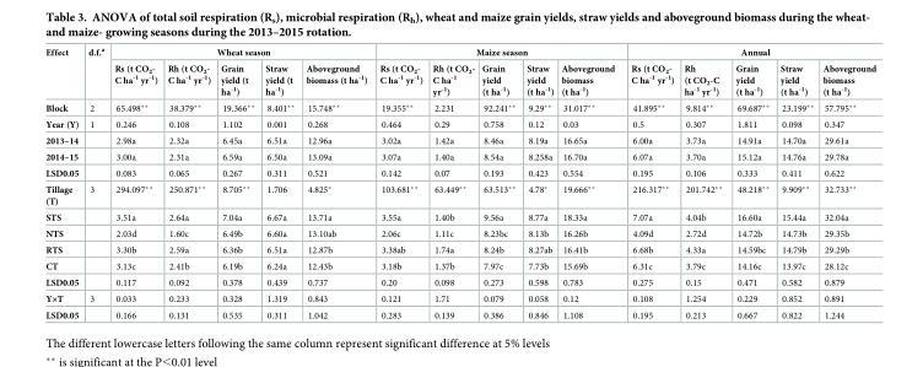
<table><thead><tr><td rowspan="2">Effect</td><td rowspan="2">d.f.<sup>a</sup></td><td colspan="5">Wheat season</td><td colspan="5">Maize season</td><td colspan="5">Annual</td></tr><tr><td>Rs (t CO<sub>2</sub>- C ha<sup>-1</sup> yr<sup>-1</sup>)</td><td>Rh (t CO<sub>2</sub>- C ha<sup>-1</sup> yr<sup>-1</sup>)</td><td>Grain yield (t ha<sup>-1</sup>)</td><td>Straw yield (t ha<sup>-1</sup>)</td><td>Aboveground biomass (t ha<sup>-1</sup>)</td><td>Rs (t CO<sub>2</sub>- C ha<sup>-1</sup> yr<sup>-1</sup>)</td><td>Rh (t CO<sub>2</sub>- C ha<sup>-1</sup> yr<sup>-1</sup>)</td><td>Grain yield (t ha<sup>-1</sup>)</td><td>Straw yield (t ha<sup>-1</sup>)</td><td>Aboveground biomass (t ha<sup>-1</sup>)</td><td>Rs (t CO<sub>2</sub>- C ha<sup>-1</sup> yr<sup>-1</sup>)</td><td>Rh (t CO<sub>2</sub>-C ha<sup>-1</sup> yr<sup>-1</sup>)</td><td>Grain yield (t ha<sup>-1</sup>)</td><td>Straw yield (t ha<sup>-1</sup>)</td><td>Aboveground biomass (t ha<sup>-1</sup>)</td></tr></thead><tbody><tr><td>Block</td><td>2</td><td>65.498**</td><td>38.379**</td><td>19.366**</td><td>8.401**</td><td>15.748**</td><td>19.355**</td><td>2.231</td><td>92.241**</td><td>9.29**</td><td>31.017**</td><td>41.895**</td><td>9.814**</td><td>69.687**</td><td>23.199**</td><td>57.795**</td></tr><tr><td>Year (Y)</td><td>1</td><td>0.246</td><td>0.108</td><td>1.102</td><td>0.001</td><td>0.268</td><td>0.464</td><td>0.29</td><td>0.758</td><td>0.12</td><td>0.03</td><td>0.5</td><td>0.307</td><td>1.811</td><td>0.098</td><td>0.347</td></tr><tr><td>2013–14</td><td></td><td>2.98a</td><td>2.32a</td><td>6.45a</td><td>6.51a</td><td>12.96a</td><td>3.02a</td><td>1.42a</td><td>8.46a</td><td>8.19a</td><td>16.65a</td><td>6.00a</td><td>3.73a</td><td>14.91a</td><td>14.70a</td><td>29.61a</td></tr><tr><td>2014–15</td><td></td><td>3.00a</td><td>2.31a</td><td>6.59a</td><td>6.50a</td><td>13.09a</td><td>3.07a</td><td>1.40a</td><td>8.54a</td><td>8.258a</td><td>16.70a</td><td>6.07a</td><td>3.70a</td><td>15.12a</td><td>14.76a</td><td>29.78a</td></tr><tr><td>LSD0.05</td><td></td><td>0.083</td><td>0.065</td><td>0.267</td><td>0.311</td><td>0.521</td><td>0.142</td><td>0.07</td><td>0.193</td><td>0.423</td><td>0.554</td><td>0.195</td><td>0.106</td><td>0.333</td><td>0.411</td><td>0.622</td></tr><tr><td>Tillage (T)</td><td>3</td><td>294.097**</td><td>250.871**</td><td>8.705**</td><td>1.706</td><td>4.825*</td><td>103.681**</td><td>63.449**</td><td>63.513**</td><td>4.78*</td><td>19.666**</td><td>216.317**</td><td>201.742**</td><td>48.218**</td><td>9.909**</td><td>32.733**</td></tr><tr><td>STS</td><td></td><td>3.51a</td><td>2.64a</td><td>7.04a</td><td>6.67a</td><td>13.71a</td><td>3.55a</td><td>1.40b</td><td>9.56a</td><td>8.77a</td><td>18.33a</td><td>7.07a</td><td>4.04b</td><td>16.60a</td><td>15.44a</td><td>32.04a</td></tr><tr><td>NTS</td><td></td><td>2.03d</td><td>1.60c</td><td>6.49b</td><td>6.60a</td><td>13.10ab</td><td>2.06c</td><td>1.11c</td><td>8.23bc</td><td>8.13b</td><td>16.26b</td><td>4.09d</td><td>2.72d</td><td>14.72b</td><td>14.73b</td><td>29.35b</td></tr><tr><td>RTS</td><td></td><td>3.30b</td><td>2.59a</td><td>6.36b</td><td>6.51a</td><td>12.87b</td><td>3.38ab</td><td>1.74a</td><td>8.24b</td><td>8.27ab</td><td>16.41b</td><td>6.68b</td><td>4.33a</td><td>14.59bc</td><td>14.79b</td><td>29.29b</td></tr><tr><td>CT</td><td></td><td>3.13c</td><td>2.41b</td><td>6.19b</td><td>6.24a</td><td>12.43b</td><td>3.18b</td><td>1.37b</td><td>7.97c</td><td>7.73b</td><td>15.69b</td><td>6.31c</td><td>3.79c</td><td>14.16c</td><td>13.97c</td><td>28.12c</td></tr><tr><td>LSD0.05</td><td></td><td>0.117</td><td>0.092</td><td>0.378</td><td>0.439</td><td>0.737</td><td>0.20</td><td>0.098</td><td>0.273</td><td>0.598</td><td>0.783</td><td>0.275</td><td>0.15</td><td>0.471</td><td>0.582</td><td>0.879</td></tr><tr><td>Y×T</td><td>3</td><td>0.033</td><td>0.233</td><td>0.328</td><td>1.319</td><td>0.843</td><td>0.121</td><td>1.71</td><td>0.079</td><td>0.058</td><td>0.12</td><td>0.108</td><td>1.254</td><td>0.229</td><td>0.852</td><td>0.891</td></tr><tr><td>LSD0.05</td><td></td><td>0.166</td><td>0.131</td><td>0.535</td><td>0.311</td><td>1.042</td><td>0.283</td><td>0.139</td><td>0.386</td><td>0.846</td><td>1.108</td><td>0.195</td><td>0.213</td><td>0.667</td><td>0.822</td><td>1.244</td></tr></tbody></table>